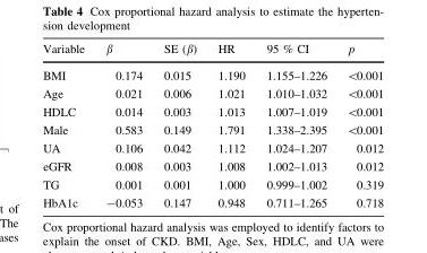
<table><thead><tr><td>Variable</td><td>β</td><td>SE (β)</td><td>HR</td><td>95 % CI</td><td>p</td></tr></thead><tbody><tr><td>BMI</td><td>0.174</td><td>0.015</td><td>1.190</td><td>1.155–1.226</td><td>&lt;0.001</td></tr><tr><td>Age</td><td>0.021</td><td>0.006</td><td>1.021</td><td>1.010–1.032</td><td>&lt;0.001</td></tr><tr><td>HDLC</td><td>0.014</td><td>0.003</td><td>1.013</td><td>1.007–1.019</td><td>&lt;0.001</td></tr><tr><td>Male</td><td>0.583</td><td>0.149</td><td>1.791</td><td>1.338–2.395</td><td>&lt;0.001</td></tr><tr><td>UA</td><td>0.106</td><td>0.042</td><td>1.112</td><td>1.024–1.207</td><td>0.012</td></tr><tr><td>eGFR</td><td>0.008</td><td>0.003</td><td>1.008</td><td>1.002–1.013</td><td>0.012</td></tr><tr><td>TG</td><td>0.001</td><td>0.001</td><td>1.000</td><td>0.999–1.002</td><td>0.319</td></tr><tr><td>HbA1c</td><td>-0.053</td><td>0.147</td><td>0.948</td><td>0.711–1.265</td><td>0.718</td></tr></tbody></table>